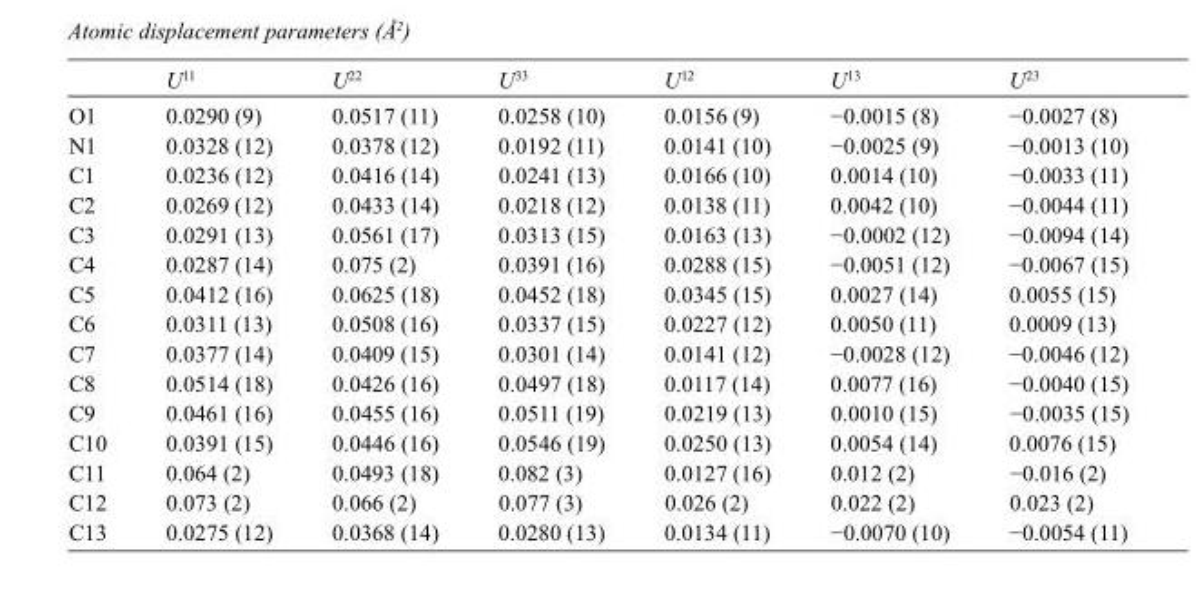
<table><thead><tr><td></td><td>U<sup>11</sup></td><td>U<sup>22</sup></td><td>U<sup>33</sup></td><td>U<sup>12</sup></td><td>U<sup>13</sup></td><td>U<sup>23</sup></td></tr></thead><tbody><tr><td>O1</td><td>0.0290 (9)</td><td>0.0517 (11)</td><td>0.0258 (10)</td><td>0.0156 (9)</td><td>−0.0015 (8)</td><td>−0.0027 (8)</td></tr><tr><td>N1</td><td>0.0328 (12)</td><td>0.0378 (12)</td><td>0.0192 (11)</td><td>0.0141 (10)</td><td>−0.0025 (9)</td><td>−0.0013 (10)</td></tr><tr><td>C1</td><td>0.0236 (12)</td><td>0.0416 (14)</td><td>0.0241 (13)</td><td>0.0166 (10)</td><td>0.0014 (10)</td><td>−0.0033 (11)</td></tr><tr><td>C2</td><td>0.0269 (12)</td><td>0.0433 (14)</td><td>0.0218 (12)</td><td>0.0138 (11)</td><td>0.0042 (10)</td><td>−0.0044 (11)</td></tr><tr><td>C3</td><td>0.0291 (13)</td><td>0.0561 (17)</td><td>0.0313 (15)</td><td>0.0163 (13)</td><td>−0.0002 (12)</td><td>−0.0094 (14)</td></tr><tr><td>C4</td><td>0.0287 (14)</td><td>0.075 (2)</td><td>0.0391 (16)</td><td>0.0288 (15)</td><td>−0.0051 (12)</td><td>−0.0067 (15)</td></tr><tr><td>C5</td><td>0.0412 (16)</td><td>0.0625 (18)</td><td>0.0452 (18)</td><td>0.0345 (15)</td><td>0.0027 (14)</td><td>0.0055 (15)</td></tr><tr><td>C6</td><td>0.0311 (13)</td><td>0.0508 (16)</td><td>0.0337 (15)</td><td>0.0227 (12)</td><td>0.0050 (11)</td><td>0.0009 (13)</td></tr><tr><td>C7</td><td>0.0377 (14)</td><td>0.0409 (15)</td><td>0.0301 (14)</td><td>0.0141 (12)</td><td>−0.0028 (12)</td><td>−0.0046 (12)</td></tr><tr><td>C8</td><td>0.0514 (18)</td><td>0.0426 (16)</td><td>0.0497 (18)</td><td>0.0117 (14)</td><td>0.0077 (16)</td><td>−0.0040 (15)</td></tr><tr><td>C9</td><td>0.0461 (16)</td><td>0.0455 (16)</td><td>0.0511 (19)</td><td>0.0219 (13)</td><td>0.0010 (15)</td><td>−0.0035 (15)</td></tr><tr><td>C10</td><td>0.0391 (15)</td><td>0.0446 (16)</td><td>0.0546 (19)</td><td>0.0250 (13)</td><td>0.0054 (14)</td><td>0.0076 (15)</td></tr><tr><td>C11</td><td>0.064 (2)</td><td>0.0493 (18)</td><td>0.082 (3)</td><td>0.0127 (16)</td><td>0.012 (2)</td><td>−0.016 (2)</td></tr><tr><td>C12</td><td>0.073 (2)</td><td>0.066 (2)</td><td>0.077 (3)</td><td>0.026 (2)</td><td>0.022 (2)</td><td>0.023 (2)</td></tr><tr><td>C13</td><td>0.0275 (12)</td><td>0.0368 (14)</td><td>0.0280 (13)</td><td>0.0134 (11)</td><td>−0.0070 (10)</td><td>−0.0054 (11)</td></tr></tbody></table>